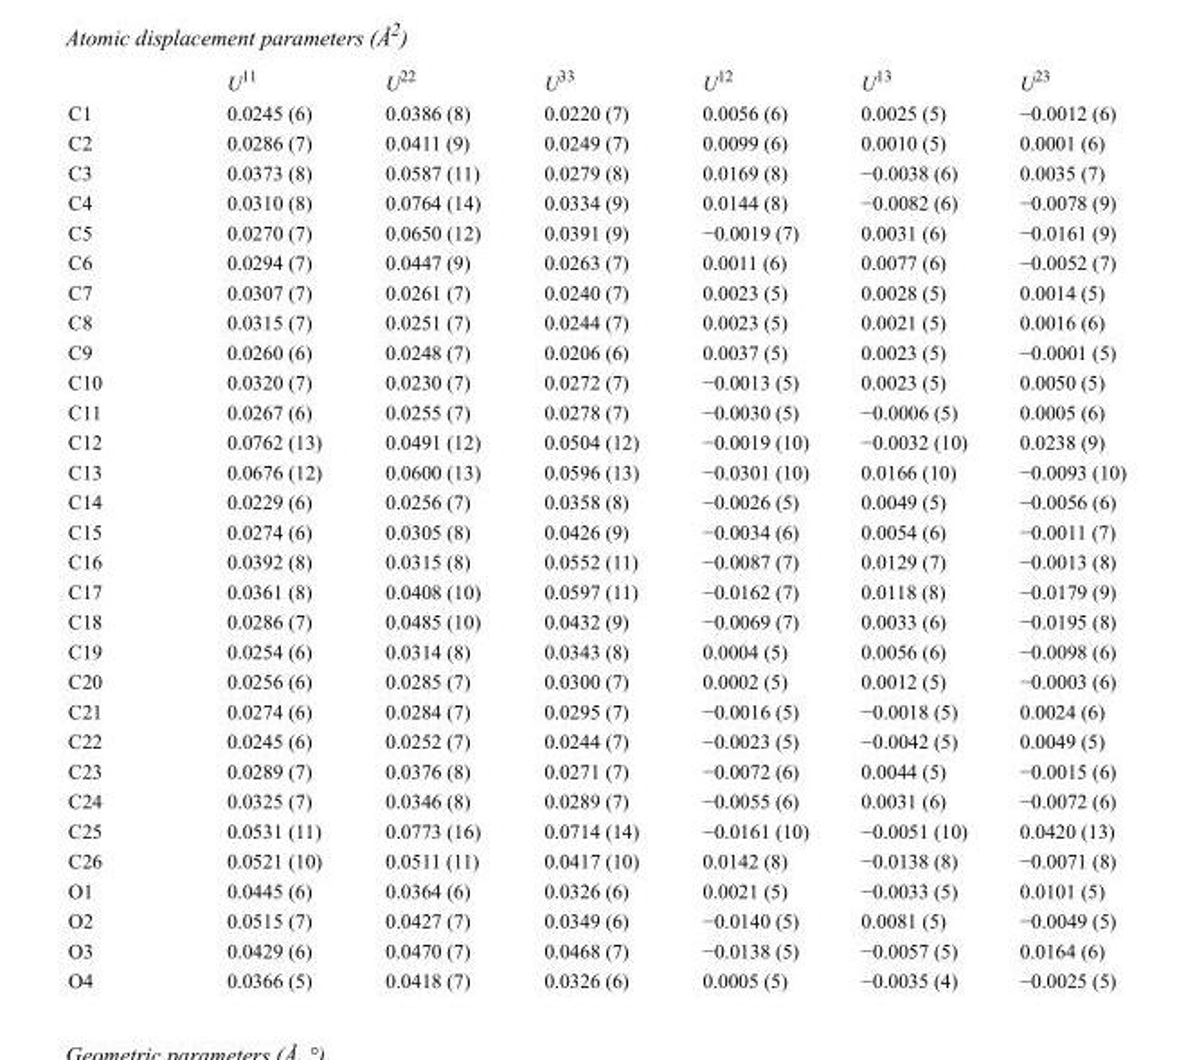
<table><thead><tr><td></td><td>U<sup>11</sup></td><td>U<sup>22</sup></td><td>U<sup>33</sup></td><td>U<sup>12</sup></td><td>U<sup>13</sup></td><td>U<sup>23</sup></td></tr></thead><tbody><tr><td>C1</td><td>0.0245 (6)</td><td>0.0386 (8)</td><td>0.0220 (7)</td><td>0.0056 (6)</td><td>0.0025 (5)</td><td>−0.0012 (6)</td></tr><tr><td>C2</td><td>0.0286 (7)</td><td>0.0411 (9)</td><td>0.0249 (7)</td><td>0.0099 (6)</td><td>0.0010 (5)</td><td>0.0001 (6)</td></tr><tr><td>C3</td><td>0.0373 (8)</td><td>0.0587 (11)</td><td>0.0279 (8)</td><td>0.0169 (8)</td><td>−0.0038 (6)</td><td>0.0035 (7)</td></tr><tr><td>C4</td><td>0.0310 (8)</td><td>0.0764 (14)</td><td>0.0334 (9)</td><td>0.0144 (8)</td><td>−0.0082 (6)</td><td>−0.0078 (9)</td></tr><tr><td>C5</td><td>0.0270 (7)</td><td>0.0650 (12)</td><td>0.0391 (9)</td><td>−0.0019 (7)</td><td>0.0031 (6)</td><td>−0.0161 (9)</td></tr><tr><td>C6</td><td>0.0294 (7)</td><td>0.0447 (9)</td><td>0.0263 (7)</td><td>0.0011 (6)</td><td>0.0077 (6)</td><td>−0.0052 (7)</td></tr><tr><td>C7</td><td>0.0307 (7)</td><td>0.0261 (7)</td><td>0.0240 (7)</td><td>0.0023 (5)</td><td>0.0028 (5)</td><td>0.0014 (5)</td></tr><tr><td>C8</td><td>0.0315 (7)</td><td>0.0251 (7)</td><td>0.0244 (7)</td><td>0.0023 (5)</td><td>0.0021 (5)</td><td>0.0016 (6)</td></tr><tr><td>C9</td><td>0.0260 (6)</td><td>0.0248 (7)</td><td>0.0206 (6)</td><td>0.0037 (5)</td><td>0.0023 (5)</td><td>−0.0001 (5)</td></tr><tr><td>C10</td><td>0.0320 (7)</td><td>0.0230 (7)</td><td>0.0272 (7)</td><td>−0.0013 (5)</td><td>0.0023 (5)</td><td>0.0050 (5)</td></tr><tr><td>C11</td><td>0.0267 (6)</td><td>0.0255 (7)</td><td>0.0278 (7)</td><td>−0.0030 (5)</td><td>−0.0006 (5)</td><td>0.0005 (6)</td></tr><tr><td>C12</td><td>0.0762 (13)</td><td>0.0491 (12)</td><td>0.0504 (12)</td><td>−0.0019 (10)</td><td>−0.0032 (10)</td><td>0.0238 (9)</td></tr><tr><td>C13</td><td>0.0676 (12)</td><td>0.0600 (13)</td><td>0.0596 (13)</td><td>−0.0301 (10)</td><td>0.0166 (10)</td><td>−0.0093 (10)</td></tr><tr><td>C14</td><td>0.0229 (6)</td><td>0.0256 (7)</td><td>0.0358 (8)</td><td>−0.0026 (5)</td><td>0.0049 (5)</td><td>−0.0056 (6)</td></tr><tr><td>C15</td><td>0.0274 (6)</td><td>0.0305 (8)</td><td>0.0426 (9)</td><td>−0.0034 (6)</td><td>0.0054 (6)</td><td>−0.0011 (7)</td></tr><tr><td>C16</td><td>0.0392 (8)</td><td>0.0315 (8)</td><td>0.0552 (11)</td><td>−0.0087 (7)</td><td>0.0129 (7)</td><td>−0.0013 (8)</td></tr><tr><td>C17</td><td>0.0361 (8)</td><td>0.0408 (10)</td><td>0.0597 (11)</td><td>−0.0162 (7)</td><td>0.0118 (8)</td><td>−0.0179 (9)</td></tr><tr><td>C18</td><td>0.0286 (7)</td><td>0.0485 (10)</td><td>0.0432 (9)</td><td>−0.0069 (7)</td><td>0.0033 (6)</td><td>−0.0195 (8)</td></tr><tr><td>C19</td><td>0.0254 (6)</td><td>0.0314 (8)</td><td>0.0343 (8)</td><td>0.0004 (5)</td><td>0.0056 (6)</td><td>−0.0098 (6)</td></tr><tr><td>C20</td><td>0.0256 (6)</td><td>0.0285 (7)</td><td>0.0300 (7)</td><td>0.0002 (5)</td><td>0.0012 (5)</td><td>−0.0003 (6)</td></tr><tr><td>C21</td><td>0.0274 (6)</td><td>0.0284 (7)</td><td>0.0295 (7)</td><td>−0.0016 (5)</td><td>−0.0018 (5)</td><td>0.0024 (6)</td></tr><tr><td>C22</td><td>0.0245 (6)</td><td>0.0252 (7)</td><td>0.0244 (7)</td><td>−0.0023 (5)</td><td>−0.0042 (5)</td><td>0.0049 (5)</td></tr><tr><td>C23</td><td>0.0289 (7)</td><td>0.0376 (8)</td><td>0.0271 (7)</td><td>−0.0072 (6)</td><td>0.0044 (5)</td><td>−0.0015 (6)</td></tr><tr><td>C24</td><td>0.0325 (7)</td><td>0.0346 (8)</td><td>0.0289 (7)</td><td>−0.0055 (6)</td><td>0.0031 (6)</td><td>−0.0072 (6)</td></tr><tr><td>C25</td><td>0.0531 (11)</td><td>0.0773 (16)</td><td>0.0714 (14)</td><td>−0.0161 (10)</td><td>−0.0051 (10)</td><td>0.0420 (13)</td></tr><tr><td>C26</td><td>0.0521 (10)</td><td>0.0511 (11)</td><td>0.0417 (10)</td><td>0.0142 (8)</td><td>−0.0138 (8)</td><td>−0.0071 (8)</td></tr><tr><td>O1</td><td>0.0445 (6)</td><td>0.0364 (6)</td><td>0.0326 (6)</td><td>0.0021 (5)</td><td>−0.0033 (5)</td><td>0.0101 (5)</td></tr><tr><td>O2</td><td>0.0515 (7)</td><td>0.0427 (7)</td><td>0.0349 (6)</td><td>−0.0140 (5)</td><td>0.0081 (5)</td><td>−0.0049 (5)</td></tr><tr><td>O3</td><td>0.0429 (6)</td><td>0.0470 (7)</td><td>0.0468 (7)</td><td>−0.0138 (5)</td><td>−0.0057 (5)</td><td>0.0164 (6)</td></tr><tr><td>O4</td><td>0.0366 (5)</td><td>0.0418 (7)</td><td>0.0326 (6)</td><td>0.0005 (5)</td><td>−0.0035 (4)</td><td>−0.0025 (5)</td></tr></tbody></table>